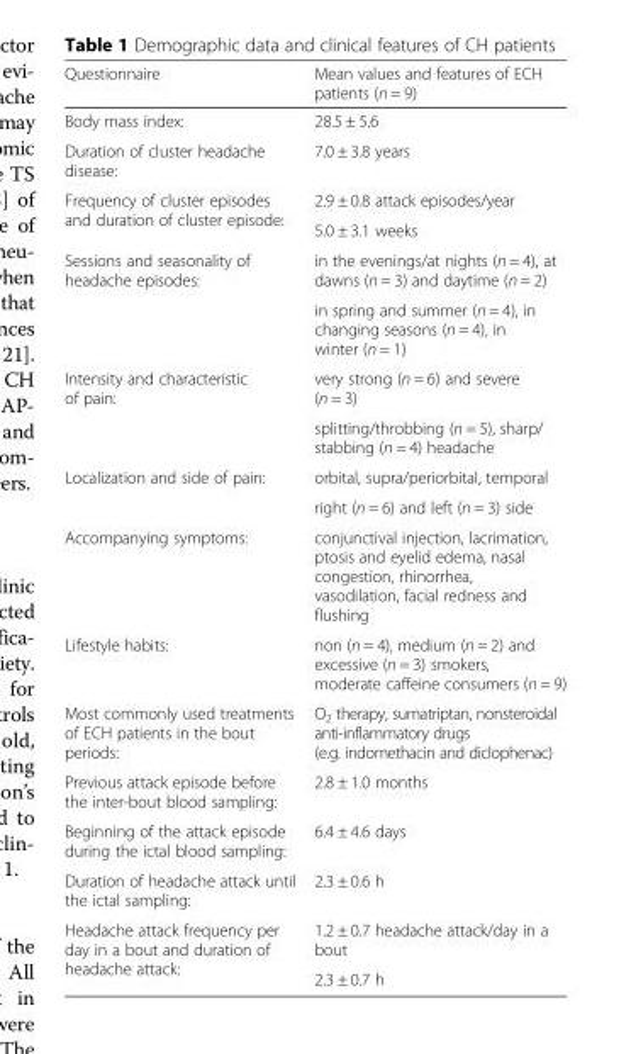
<table><thead><tr><td>Questionnaire</td><td>Mean values and features of ECH patients (n = 9)</td></tr></thead><tbody><tr><td>Body mass index:</td><td>28.5 ± 5.6</td></tr><tr><td>Duration of cluster headache disease:</td><td>7.0 ± 3.8 years</td></tr><tr><td rowspan="2">Frequency of cluster episodes and duration of cluster episode:</td><td>2.9 ± 0.8 attack episodes/year</td></tr><tr><td>5.0 ± 3.1 weeks</td></tr><tr><td rowspan="2">Sessions and seasonality of headache episodes:</td><td>in the evenings/at nights (n = 4), at dawns (n = 3) and daytime (n = 2)</td></tr><tr><td>in spring and summer (n = 4), in changing seasons (n = 4), in winter (n = 1)</td></tr><tr><td rowspan="2">Intensity and characteristic of pain:</td><td>very strong (n = 6) and severe (n = 3)</td></tr><tr><td>splitting/throbbing (n = 5), sharp/ stabbing (n = 4) headache</td></tr><tr><td rowspan="2">Localization and side of pain:</td><td>orbital, supra/periorbital, temporal</td></tr><tr><td>right (n = 6) and left (n = 3) side</td></tr><tr><td>Accompanying symptoms:</td><td>conjunctival injection, lacrimation, ptosis and eyelid edema, nasal congestion, rhinorrhea, vasodilation, facial redness and flushing</td></tr><tr><td>Lifestyle habits:</td><td>non (n = 4), medium (n = 2) and excessive (n = 3) smokers, moderate caffeine consumers (n = 9)</td></tr><tr><td>Most commonly used treatments of ECH patients in the bout periods:</td><td>O<sub>2</sub> therapy, sumatriptan, nonsteroidal anti-inflammatory drugs (e.g. indomethacin and diclophenac)</td></tr><tr><td>Previous attack episode before the inter-bout blood sampling:</td><td>2.8 ± 1.0 months</td></tr><tr><td>Beginning of the attack episode during the ictal blood sampling:</td><td>6.4 ± 4.6 days</td></tr><tr><td>Duration of headache attack until the ictal sampling:</td><td>2.3 ± 0.6 h</td></tr><tr><td rowspan="2">Headache attack frequency per day in a bout and duration of headache attack:</td><td>1.2 ± 0.7 headache attack/day in a bout</td></tr><tr><td>2.3 ± 0.7 h</td></tr></tbody></table>